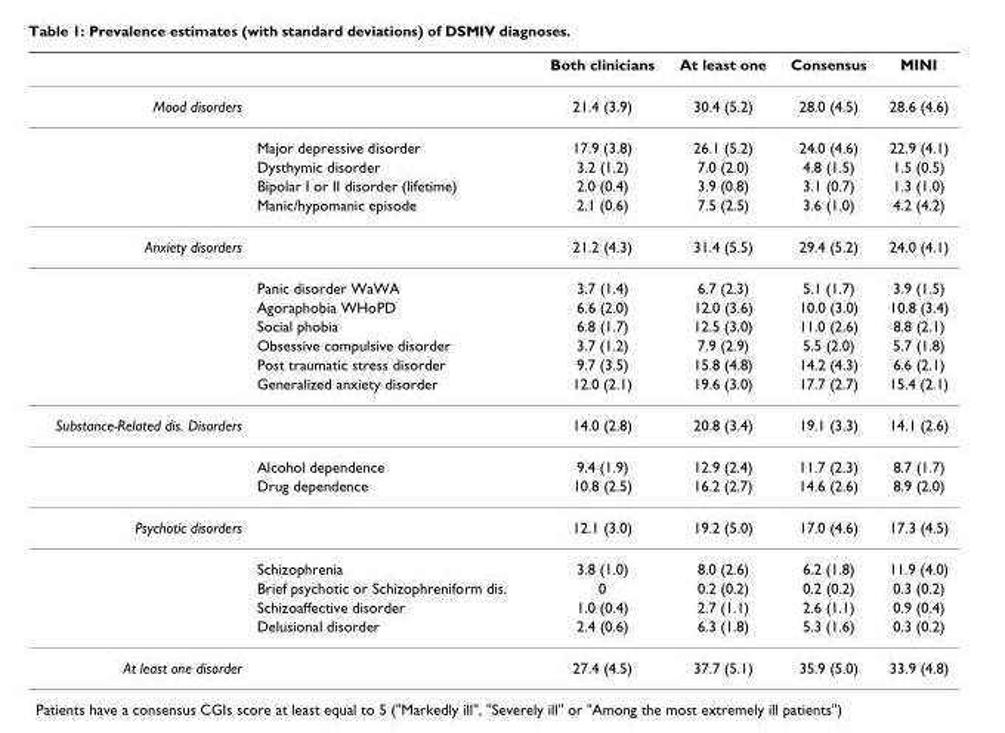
<table><thead><tr><td></td><td></td><td>Both clinicians</td><td>At least one</td><td>Consensus</td><td>MINI</td></tr></thead><tbody><tr><td rowspan="5">Mood disorders</td><td></td><td>21.4 (3.9)</td><td>30.4 (5.2)</td><td>28.0 (4.5)</td><td>28.6 (4.6)</td></tr><tr><td>Major depressive disorder</td><td>17.9 (3.8)</td><td>26.1 (5.2)</td><td>24.0 (4.6)</td><td>22.9 (4.1)</td></tr><tr><td>Dysthymic disorder</td><td>3.2 (1.2)</td><td>7.0 (2.0)</td><td>4.8 (1.5)</td><td>1.5 (0.5)</td></tr><tr><td>Bipolar I or II disorder (lifetime)</td><td>2.0 (0.4)</td><td>3.9 (0.8)</td><td>3.1 (0.7)</td><td>1.3 (1.0)</td></tr><tr><td>Manic/hypomanic episode</td><td>2.1 (0.6)</td><td>7.5 (2.5)</td><td>3.6 (1.0)</td><td>4.2 (4.2)</td></tr><tr><td rowspan="7">Anxiety disorders</td><td></td><td>21.2 (4.3)</td><td>31.4 (5.5)</td><td>29.4 (5.2)</td><td>24.0 (4.1)</td></tr><tr><td>Panic disorder WaWA</td><td>3.7 (1.4)</td><td>6.7 (2.3)</td><td>5.1 (1.7)</td><td>3.9 (1.5)</td></tr><tr><td>Agoraphobia WHoPD</td><td>6.6 (2.0)</td><td>12.0 (3.6)</td><td>10.0 (3.0)</td><td>10.8 (3.4)</td></tr><tr><td>Social phobia</td><td>6.8 (1.7)</td><td>12.5 (3.0)</td><td>11.0 (2.6)</td><td>8.8 (2.1)</td></tr><tr><td>Obsessive compulsive disorder</td><td>3.7 (1.2)</td><td>7.9 (2.9)</td><td>5.5 (2.0)</td><td>5.7 (1.8)</td></tr><tr><td>Post traumatic stress disorder</td><td>9.7 (3.5)</td><td>15.8 (4.8)</td><td>14.2 (4.3)</td><td>6.6 (2.1)</td></tr><tr><td>Generalized anxiety disorder</td><td>12.0 (2.1)</td><td>19.6 (3.0)</td><td>17.7 (2.7)</td><td>15.4 (2.1)</td></tr><tr><td rowspan="3">Substance-Related dis. Disorders</td><td></td><td>14.0 (2.8)</td><td>20.8 (3.4)</td><td>19.1 (3.3)</td><td>14.1 (2.6)</td></tr><tr><td>Alcohol dependence</td><td>9.4 (1.9)</td><td>12.9 (2.4)</td><td>11.7 (2.3)</td><td>8.7 (1.7)</td></tr><tr><td>Drug dependence</td><td>10.8 (2.5)</td><td>16.2 (2.7)</td><td>14.6 (2.6)</td><td>8.9 (2.0)</td></tr><tr><td rowspan="5">Psychotic disorders</td><td></td><td>12.1 (3.0)</td><td>19.2 (5.0)</td><td>17.0 (4.6)</td><td>17.3 (4.5)</td></tr><tr><td>Schizophrenia</td><td>3.8 (1.0)</td><td>8.0 (2.6)</td><td>6.2 (1.8)</td><td>11.9 (4.0)</td></tr><tr><td>Brief psychotic or Schizophreniform dis.</td><td>0</td><td>0.2 (0.2)</td><td>0.2 (0.2)</td><td>0.3 (0.2)</td></tr><tr><td>Schizoaffective disorder</td><td>1.0 (0.4)</td><td>2.7 (1.1)</td><td>2.6 (1.1)</td><td>0.9 (0.4)</td></tr><tr><td>Delusional disorder</td><td>2.4 (0.6)</td><td>6.3 (1.8)</td><td>5.3 (1.6)</td><td>0.3 (0.2)</td></tr><tr><td>At least one disorder</td><td></td><td>27.4 (4.5)</td><td>37.7 (5.1)</td><td>35.9 (5.0)</td><td>33.9 (4.8)</td></tr></tbody></table>